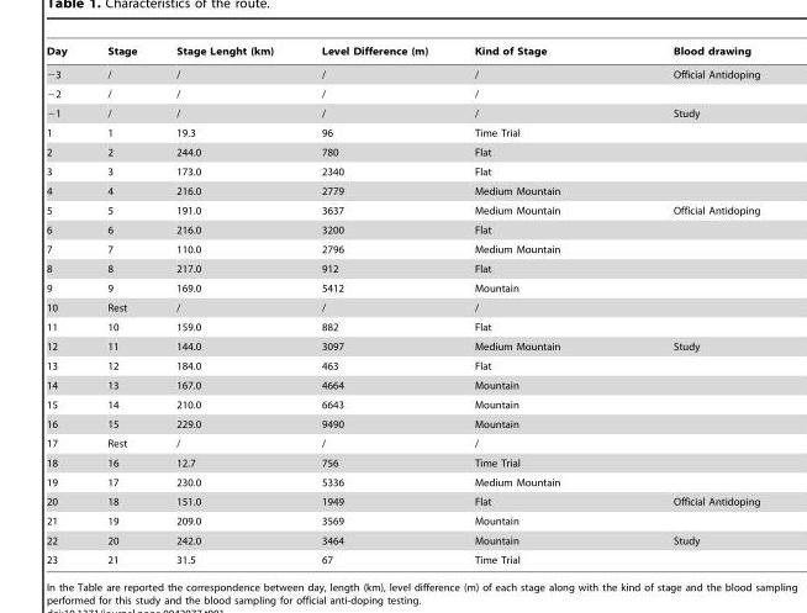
<table><thead><tr><td>Day</td><td>Stage</td><td>Stage Lenght (km)</td><td>Level Difference (m)</td><td>Kind of Stage</td><td>Blood drawing</td></tr></thead><tbody><tr><td>−3</td><td>/</td><td>/</td><td>/</td><td>/</td><td>Official Antidoping</td></tr><tr><td>−2</td><td>/</td><td>/</td><td>/</td><td>/</td><td></td></tr><tr><td>−1</td><td>/</td><td>/</td><td>/</td><td>/</td><td>Study</td></tr><tr><td>1</td><td>1</td><td>19.3</td><td>96</td><td>Time Trial</td><td></td></tr><tr><td>2</td><td>2</td><td>244.0</td><td>780</td><td>Flat</td><td></td></tr><tr><td>3</td><td>3</td><td>173.0</td><td>2340</td><td>Flat</td><td></td></tr><tr><td>4</td><td>4</td><td>216.0</td><td>2779</td><td>Medium Mountain</td><td></td></tr><tr><td>5</td><td>5</td><td>191.0</td><td>3637</td><td>Medium Mountain</td><td>Official Antidoping</td></tr><tr><td>6</td><td>6</td><td>216.0</td><td>3200</td><td>Flat</td><td></td></tr><tr><td>7</td><td>7</td><td>110.0</td><td>2796</td><td>Medium Mountain</td><td></td></tr><tr><td>8</td><td>8</td><td>217.0</td><td>912</td><td>Flat</td><td></td></tr><tr><td>9</td><td>9</td><td>169.0</td><td>5412</td><td>Mountain</td><td></td></tr><tr><td>10</td><td>Rest</td><td>/</td><td>/</td><td>/</td><td></td></tr><tr><td>11</td><td>10</td><td>159.0</td><td>882</td><td>Flat</td><td></td></tr><tr><td>12</td><td>11</td><td>144.0</td><td>3097</td><td>Medium Mountain</td><td>Study</td></tr><tr><td>13</td><td>12</td><td>184.0</td><td>463</td><td>Flat</td><td></td></tr><tr><td>14</td><td>13</td><td>167.0</td><td>4664</td><td>Mountain</td><td></td></tr><tr><td>15</td><td>14</td><td>210.0</td><td>6643</td><td>Mountain</td><td></td></tr><tr><td>16</td><td>15</td><td>229.0</td><td>9490</td><td>Mountain</td><td></td></tr><tr><td>17</td><td>Rest</td><td>/</td><td>/</td><td>/</td><td></td></tr><tr><td>18</td><td>16</td><td>12.7</td><td>756</td><td>Time Trial</td><td></td></tr><tr><td>19</td><td>17</td><td>230.0</td><td>5336</td><td>Medium Mountain</td><td></td></tr><tr><td>20</td><td>18</td><td>151.0</td><td>1949</td><td>Flat</td><td>Official Antidoping</td></tr><tr><td>21</td><td>19</td><td>209.0</td><td>3569</td><td>Mountain</td><td></td></tr><tr><td>22</td><td>20</td><td>242.0</td><td>3464</td><td>Mountain</td><td>Study</td></tr><tr><td>23</td><td>21</td><td>31.5</td><td>67</td><td>Time Trial</td><td></td></tr></tbody></table>